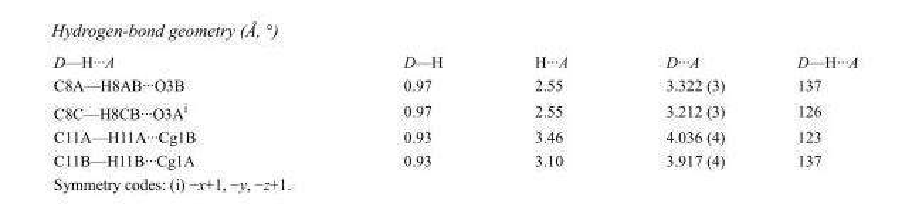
<table><tbody><tr><td>D—H···A</td><td>D—H</td><td>H···A</td><td>D···A</td><td>D—H···A</td></tr><tr><td>C8A—H8AB···O3B</td><td>0.97</td><td>2.55</td><td>3.322 (3)</td><td>137</td></tr><tr><td>C8C—H8CB···O3A<sup>i</sup></td><td>0.97</td><td>2.55</td><td>3.212 (3)</td><td>126</td></tr><tr><td>C11A—H11A···Cg1B</td><td>0.93</td><td>3.46</td><td>4.036 (4)</td><td>123</td></tr><tr><td>C11B—H11B···Cg1A</td><td>0.93</td><td>3.10</td><td>3.917 (4)</td><td>137</td></tr></tbody></table>